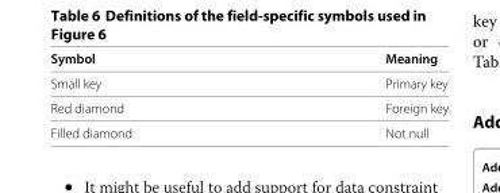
<table><thead><tr><td>Symbol</td><td>Meaning</td></tr></thead><tbody><tr><td>Small key</td><td>Primary key</td></tr><tr><td>Red diamond</td><td>Foreign key</td></tr><tr><td>Filled diamond</td><td>Not null</td></tr></tbody></table>